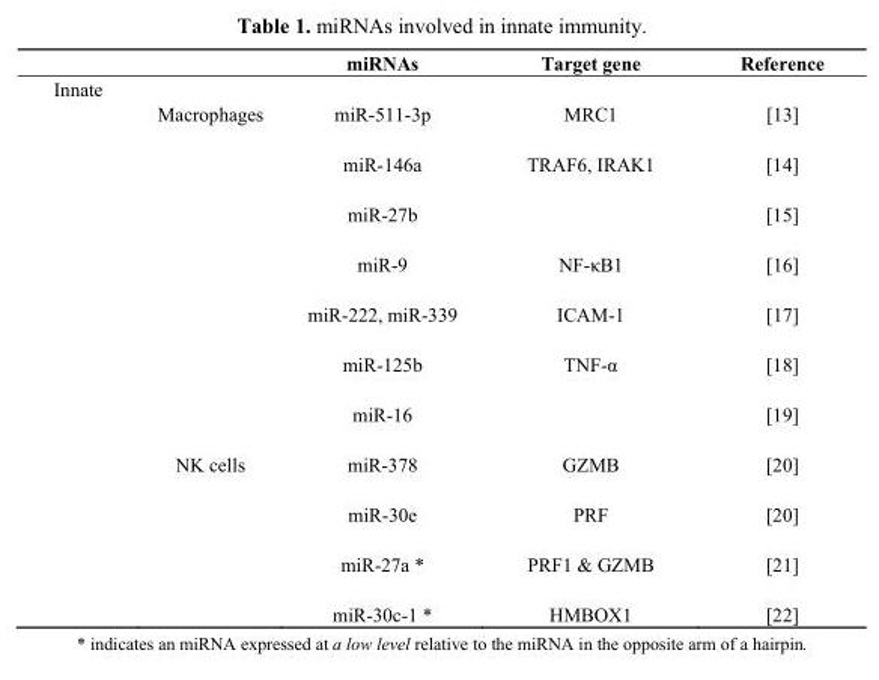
<table><thead><tr><td></td><td></td><td>miRNAs</td><td>Target gene</td><td>Reference</td></tr></thead><tbody><tr><td colspan="5">Innate</td></tr><tr><td></td><td>Macrophages</td><td>miR-511-3p</td><td>MRC1</td><td>[13]</td></tr><tr><td></td><td></td><td>miR-146a</td><td>TRAF6, IRAK1</td><td>[14]</td></tr><tr><td></td><td></td><td>miR-27b</td><td></td><td>[15]</td></tr><tr><td></td><td></td><td>miR-9</td><td>NF-κB1</td><td>[16]</td></tr><tr><td></td><td></td><td>miR-222, miR-339</td><td>ICAM-1</td><td>[17]</td></tr><tr><td></td><td></td><td>miR-125b</td><td>TNF-α</td><td>[18]</td></tr><tr><td></td><td></td><td>miR-16</td><td></td><td>[19]</td></tr><tr><td></td><td>NK cells</td><td>miR-378</td><td>GZMB</td><td>[20]</td></tr><tr><td></td><td></td><td>miR-30e</td><td>PRF</td><td>[20]</td></tr><tr><td></td><td></td><td>miR-27a *</td><td>PRF1 &amp; GZMB</td><td>[21]</td></tr><tr><td></td><td></td><td>miR-30c-1 *</td><td>HMBOX1</td><td>[22]</td></tr></tbody></table>